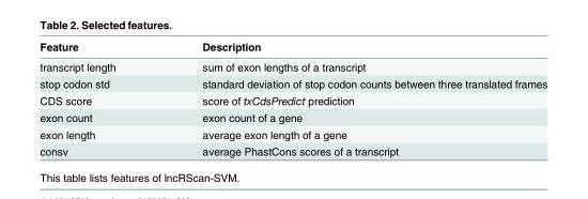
<table><thead><tr><td>Feature</td><td>Description</td></tr></thead><tbody><tr><td>transcript length</td><td>sum of exon lengths of a transcript</td></tr><tr><td>stop codon std</td><td>standard deviation of stop codon counts between three translated frames</td></tr><tr><td>CDS score</td><td>score of txCdsPredict prediction</td></tr><tr><td>exon count</td><td>exon count of a gene</td></tr><tr><td>exon length</td><td>average exon length of a gene</td></tr><tr><td>consv</td><td>average PhastCons scores of a transcript</td></tr></tbody></table>